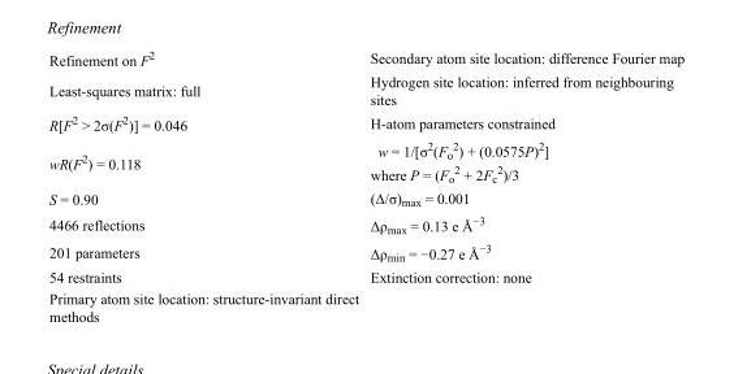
<table><tbody><tr><td>Refinement on F<sup>2</sup></td><td>Secondary atom site location: difference Fourier map</td></tr><tr><td>Least-squares matrix: full</td><td>Hydrogen site location: inferred from neighbouring sites</td></tr><tr><td>R[F<sup>2</sup> &gt; 2σ(F<sup>2</sup>)] = 0.046</td><td>H-atom parameters constrained</td></tr><tr><td>wR(F<sup>2</sup>) = 0.118</td><td>w = 1/[σ<sup>2</sup>(F<sub>o</sub> <sup>2</sup>) + (0.0575P)<sup>2</sup>] where P = (F<sub>o</sub> <sup>2</sup> + 2F<sub>c</sub> <sup>2</sup>)/3</td></tr><tr><td>S = 0.90</td><td>(Δ/σ)<sub>max</sub> = 0.001</td></tr><tr><td>4466 reflections</td><td>Δρ<sub>max</sub> = 0.13 e Å<sup>−3</sup></td></tr><tr><td>201 parameters</td><td>Δρ<sub>min</sub> = −0.27 e Å<sup>−3</sup></td></tr><tr><td>54 restraints</td><td>Extinction correction: none</td></tr><tr><td>Primary atom site location: structure-invariant direct methods</td><td></td></tr></tbody></table>